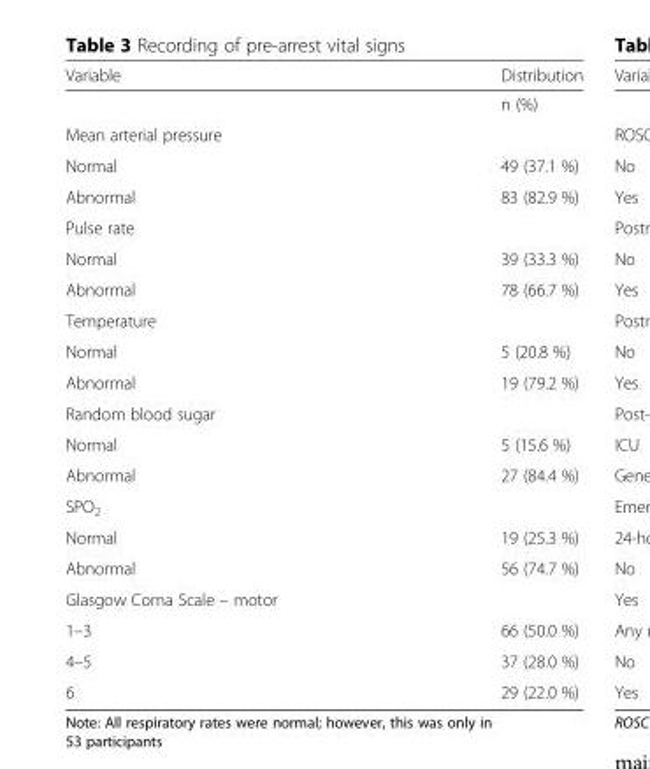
<table><thead><tr><td>Variable</td><td>Distribution</td></tr></thead><tbody><tr><td></td><td>n (%)</td></tr><tr><td colspan="2">Mean arterial pressure</td></tr><tr><td>Normal</td><td>49 (37.1 %)</td></tr><tr><td>Abnormal</td><td>83 (82.9 %)</td></tr><tr><td colspan="2">Pulse rate</td></tr><tr><td>Normal</td><td>39 (33.3 %)</td></tr><tr><td>Abnormal</td><td>78 (66.7 %)</td></tr><tr><td colspan="2">Temperature</td></tr><tr><td>Normal</td><td>5 (20.8 %)</td></tr><tr><td>Abnormal</td><td>19 (79.2 %)</td></tr><tr><td colspan="2">Random blood sugar</td></tr><tr><td>Normal</td><td>5 (15.6 %)</td></tr><tr><td>Abnormal</td><td>27 (84.4 %)</td></tr><tr><td colspan="2">SPO<sub>2</sub></td></tr><tr><td>Normal</td><td>19 (25.3 %)</td></tr><tr><td>Abnormal</td><td>56 (74.7 %)</td></tr><tr><td colspan="2">Glasgow Coma Scale – motor</td></tr><tr><td>1–3</td><td>66 (50.0 %)</td></tr><tr><td>4–5</td><td>37 (28.0 %)</td></tr><tr><td>6</td><td>29 (22.0 %)</td></tr></tbody></table>